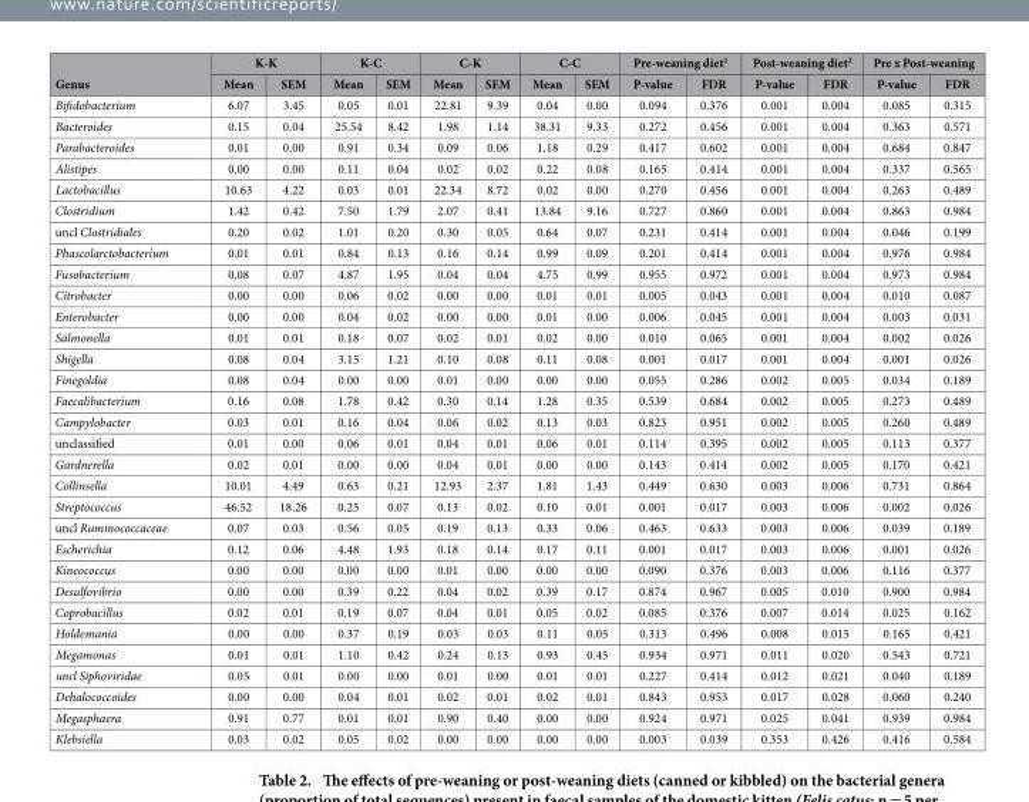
<table><thead><tr><td rowspan="2">Genus</td><td colspan="2">K-K</td><td colspan="2">K-C</td><td colspan="2">C-K</td><td colspan="2">C-C</td><td colspan="2">Pre-weaning diet<sup>1</sup></td><td colspan="2">Post-weaning diet<sup>2</sup></td><td colspan="2">Pre x Post-weaning</td></tr><tr><td>Mean</td><td>SEM</td><td>Mean</td><td>SEM</td><td>Mean</td><td>SEM</td><td>Mean</td><td>SEM</td><td>P-value</td><td>FDR</td><td>P-value</td><td>FDR</td><td>P-value</td><td>FDR</td></tr></thead><tbody><tr><td>Bifidobacterium</td><td>6.07</td><td>3.45</td><td>0.05</td><td>0.01</td><td>22.81</td><td>9.39</td><td>0.04</td><td>0.00</td><td>0.094</td><td>0.376</td><td>0.001</td><td>0.004</td><td>0.085</td><td>0.315</td></tr><tr><td>Bacteroides</td><td>0.15</td><td>0.04</td><td>25.54</td><td>8.42</td><td>1.98</td><td>1.14</td><td>38.31</td><td>9.33</td><td>0.272</td><td>0.456</td><td>0.001</td><td>0.004</td><td>0.363</td><td>0.571</td></tr><tr><td>Parabacteroides</td><td>0.01</td><td>0.00</td><td>0.91</td><td>0.34</td><td>0.09</td><td>0.06</td><td>1.18</td><td>0.29</td><td>0.417</td><td>0.602</td><td>0.001</td><td>0.004</td><td>0.684</td><td>0.847</td></tr><tr><td>Alistipes</td><td>0.00</td><td>0.00</td><td>0.11</td><td>0.04</td><td>0.02</td><td>0.02</td><td>0.22</td><td>0.08</td><td>0.165</td><td>0.414</td><td>0.001</td><td>0.004</td><td>0.337</td><td>0.565</td></tr><tr><td>Lactobacillus</td><td>10.63</td><td>4.22</td><td>0.03</td><td>0.01</td><td>22.34</td><td>8.72</td><td>0.02</td><td>0.00</td><td>0.270</td><td>0.456</td><td>0.001</td><td>0.004</td><td>0.263</td><td>0.489</td></tr><tr><td>Clostridium</td><td>1.42</td><td>0.42</td><td>7.50</td><td>1.79</td><td>2.07</td><td>0.41</td><td>13.84</td><td>9.16</td><td>0.727</td><td>0.860</td><td>0.001</td><td>0.004</td><td>0.863</td><td>0.984</td></tr><tr><td>uncl Clostridiales</td><td>0.20</td><td>0.02</td><td>1.01</td><td>0.20</td><td>0.30</td><td>0.05</td><td>0.64</td><td>0.07</td><td>0.231</td><td>0.414</td><td>0.001</td><td>0.004</td><td>0.046</td><td>0.199</td></tr><tr><td>Phascolarctobacterium</td><td>0.01</td><td>0.01</td><td>0.84</td><td>0.13</td><td>0.16</td><td>0.14</td><td>0.99</td><td>0.09</td><td>0.201</td><td>0.414</td><td>0.001</td><td>0.004</td><td>0.976</td><td>0.984</td></tr><tr><td>Fusobacterium</td><td>0.08</td><td>0.07</td><td>4.87</td><td>1.95</td><td>0.04</td><td>0.04</td><td>4.75</td><td>0.99</td><td>0.955</td><td>0.972</td><td>0.001</td><td>0.004</td><td>0.973</td><td>0.984</td></tr><tr><td>Citrobacter</td><td>0.00</td><td>0.00</td><td>0.06</td><td>0.02</td><td>0.00</td><td>0.00</td><td>0.01</td><td>0.01</td><td>0.005</td><td>0.043</td><td>0.001</td><td>0.004</td><td>0.010</td><td>0.087</td></tr><tr><td>Enterobacter</td><td>0.00</td><td>0.00</td><td>0.04</td><td>0.02</td><td>0.00</td><td>0.00</td><td>0.01</td><td>0.00</td><td>0.006</td><td>0.045</td><td>0.001</td><td>0.004</td><td>0.003</td><td>0.031</td></tr><tr><td>Salmonella</td><td>0.01</td><td>0.01</td><td>0.18</td><td>0.07</td><td>0.02</td><td>0.01</td><td>0.02</td><td>0.00</td><td>0.010</td><td>0.065</td><td>0.001</td><td>0.004</td><td>0.002</td><td>0.026</td></tr><tr><td>Shigella</td><td>0.08</td><td>0.04</td><td>3.15</td><td>1.21</td><td>0.10</td><td>0.08</td><td>0.11</td><td>0.08</td><td>0.001</td><td>0.017</td><td>0.001</td><td>0.004</td><td>0.001</td><td>0.026</td></tr><tr><td>Finegoldia</td><td>0.08</td><td>0.04</td><td>0.00</td><td>0.00</td><td>0.01</td><td>0.00</td><td>0.00</td><td>0.00</td><td>0.055</td><td>0.286</td><td>0.002</td><td>0.005</td><td>0.034</td><td>0.189</td></tr><tr><td>Faecalibacterium</td><td>0.16</td><td>0.08</td><td>1.78</td><td>0.42</td><td>0.30</td><td>0.14</td><td>1.28</td><td>0.35</td><td>0.539</td><td>0.684</td><td>0.002</td><td>0.005</td><td>0.273</td><td>0.489</td></tr><tr><td>Campylobacter</td><td>0.03</td><td>0.01</td><td>0.16</td><td>0.04</td><td>0.06</td><td>0.02</td><td>0.13</td><td>0.03</td><td>0.823</td><td>0.951</td><td>0.002</td><td>0.005</td><td>0.260</td><td>0.489</td></tr><tr><td>unclassified</td><td>0.01</td><td>0.00</td><td>0.06</td><td>0.01</td><td>0.04</td><td>0.01</td><td>0.06</td><td>0.01</td><td>0.114</td><td>0.395</td><td>0.002</td><td>0.005</td><td>0.113</td><td>0.377</td></tr><tr><td>Gardnerella</td><td>0.02</td><td>0.01</td><td>0.00</td><td>0.00</td><td>0.04</td><td>0.01</td><td>0.00</td><td>0.00</td><td>0.143</td><td>0.414</td><td>0.002</td><td>0.005</td><td>0.170</td><td>0.421</td></tr><tr><td>Collinsella</td><td>10.01</td><td>4.49</td><td>0.63</td><td>0.21</td><td>12.93</td><td>2.37</td><td>1.81</td><td>1.43</td><td>0.449</td><td>0.630</td><td>0.003</td><td>0.006</td><td>0.731</td><td>0.864</td></tr><tr><td>Streptococcus</td><td>46.52</td><td>18.26</td><td>0.25</td><td>0.07</td><td>0.13</td><td>0.02</td><td>0.10</td><td>0.01</td><td>0.001</td><td>0.017</td><td>0.003</td><td>0.006</td><td>0.002</td><td>0.026</td></tr><tr><td>uncl Ruminococcaceae</td><td>0.07</td><td>0.03</td><td>0.56</td><td>0.05</td><td>0.19</td><td>0.13</td><td>0.33</td><td>0.06</td><td>0.463</td><td>0.633</td><td>0.003</td><td>0.006</td><td>0.039</td><td>0.189</td></tr><tr><td>Escherichia</td><td>0.12</td><td>0.06</td><td>4.48</td><td>1.93</td><td>0.18</td><td>0.14</td><td>0.17</td><td>0.11</td><td>0.001</td><td>0.017</td><td>0.003</td><td>0.006</td><td>0.001</td><td>0.026</td></tr><tr><td>Kineococcus</td><td>0.00</td><td>0.00</td><td>0.00</td><td>0.00</td><td>0.01</td><td>0.00</td><td>0.00</td><td>0.00</td><td>0.090</td><td>0.376</td><td>0.003</td><td>0.006</td><td>0.116</td><td>0.377</td></tr><tr><td>Desulfovibrio</td><td>0.00</td><td>0.00</td><td>0.39</td><td>0.22</td><td>0.04</td><td>0.02</td><td>0.39</td><td>0.17</td><td>0.874</td><td>0.967</td><td>0.005</td><td>0.010</td><td>0.900</td><td>0.984</td></tr><tr><td>Coprobacillus</td><td>0.02</td><td>0.01</td><td>0.19</td><td>0.07</td><td>0.04</td><td>0.01</td><td>0.05</td><td>0.02</td><td>0.085</td><td>0.376</td><td>0.007</td><td>0.014</td><td>0.025</td><td>0.162</td></tr><tr><td>Holdemania</td><td>0.00</td><td>0.00</td><td>0.37</td><td>0.19</td><td>0.03</td><td>0.03</td><td>0.11</td><td>0.05</td><td>0.313</td><td>0.496</td><td>0.008</td><td>0.015</td><td>0.165</td><td>0.421</td></tr><tr><td>Megamonas</td><td>0.01</td><td>0.01</td><td>1.10</td><td>0.42</td><td>0.24</td><td>0.13</td><td>0.93</td><td>0.45</td><td>0.934</td><td>0.971</td><td>0.011</td><td>0.020</td><td>0.543</td><td>0.721</td></tr><tr><td>uncl Siphoviridae</td><td>0.05</td><td>0.01</td><td>0.00</td><td>0.00</td><td>0.01</td><td>0.00</td><td>0.01</td><td>0.01</td><td>0.227</td><td>0.414</td><td>0.012</td><td>0.021</td><td>0.040</td><td>0.189</td></tr><tr><td>Dehalococcoides</td><td>0.00</td><td>0.00</td><td>0.04</td><td>0.01</td><td>0.02</td><td>0.01</td><td>0.02</td><td>0.01</td><td>0.843</td><td>0.953</td><td>0.017</td><td>0.028</td><td>0.060</td><td>0.240</td></tr><tr><td>Megasphaera</td><td>0.91</td><td>0.77</td><td>0.01</td><td>0.01</td><td>0.90</td><td>0.40</td><td>0.00</td><td>0.00</td><td>0.924</td><td>0.971</td><td>0.025</td><td>0.041</td><td>0.939</td><td>0.984</td></tr><tr><td>Klebsiella</td><td>0.03</td><td>0.02</td><td>0.05</td><td>0.02</td><td>0.00</td><td>0.00</td><td>0.00</td><td>0.00</td><td>0.003</td><td>0.039</td><td>0.353</td><td>0.426</td><td>0.416</td><td>0.584</td></tr></tbody></table>